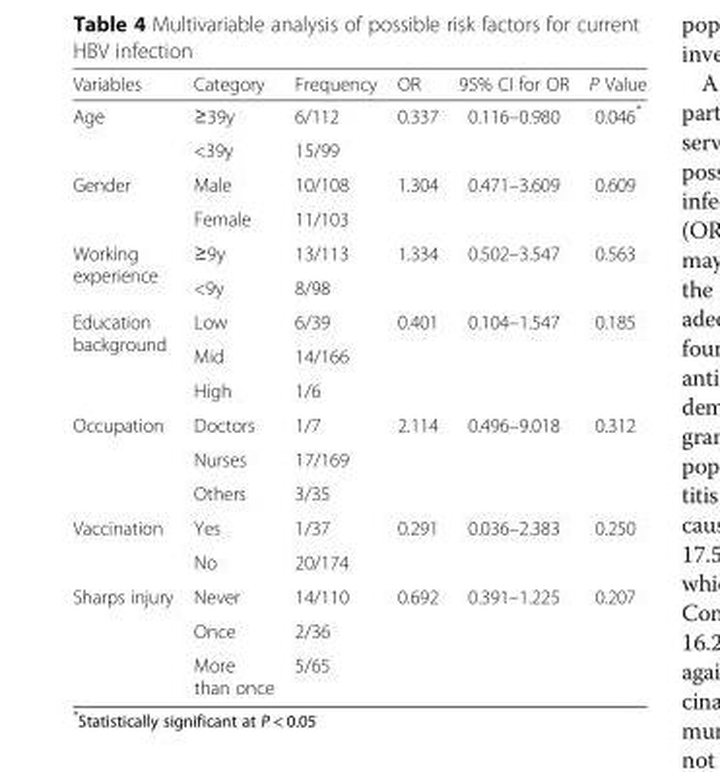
<table><thead><tr><td>Variables</td><td>Category</td><td>Frequency</td><td>OR</td><td>95% CI for OR</td><td>P Value</td></tr></thead><tbody><tr><td rowspan="2">Age</td><td>≥39y</td><td>6/112</td><td rowspan="2">0.337</td><td rowspan="2">0.116–0.980</td><td rowspan="2">0.046*</td></tr><tr><td>&lt;39y</td><td>15/99</td></tr><tr><td rowspan="2">Gender</td><td>Male</td><td>10/108</td><td rowspan="2">1.304</td><td rowspan="2">0.471–3.609</td><td rowspan="2">0.609</td></tr><tr><td>Female</td><td>11/103</td></tr><tr><td rowspan="2">Working experience</td><td>≥9y</td><td>13/113</td><td rowspan="2">1.334</td><td rowspan="2">0.502–3.547</td><td rowspan="2">0.563</td></tr><tr><td>&lt;9y</td><td>8/98</td></tr><tr><td rowspan="3">Education background</td><td>Low</td><td>6/39</td><td rowspan="3">0.401</td><td rowspan="3">0.104–1.547</td><td rowspan="3">0.185</td></tr><tr><td>Mid</td><td>14/166</td></tr><tr><td>High</td><td>1/6</td></tr><tr><td rowspan="3">Occupation</td><td>Doctors</td><td>1/7</td><td rowspan="3">2.114</td><td rowspan="3">0.496–9.018</td><td rowspan="3">0.312</td></tr><tr><td>Nurses</td><td>17/169</td></tr><tr><td>Others</td><td>3/35</td></tr><tr><td rowspan="2">Vaccination</td><td>Yes</td><td>1/37</td><td rowspan="2">0.291</td><td rowspan="2">0.036–2.383</td><td rowspan="2">0.250</td></tr><tr><td>No</td><td>20/174</td></tr><tr><td rowspan="3">Sharps injury</td><td>Never</td><td>14/110</td><td rowspan="3">0.692</td><td rowspan="3">0.391–1.225</td><td rowspan="3">0.207</td></tr><tr><td>Once</td><td>2/36</td></tr><tr><td>More than once</td><td>5/65</td></tr></tbody></table>